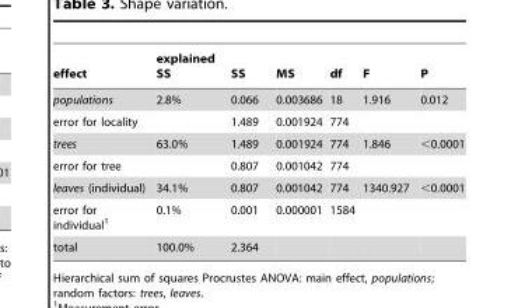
<table><thead><tr><td>effect</td><td>explained SS</td><td>SS</td><td>MS</td><td>df</td><td>F</td><td>P</td></tr></thead><tbody><tr><td>populations</td><td>2.8%</td><td>0.066</td><td>0.003686</td><td>18</td><td>1.916</td><td>0.012</td></tr><tr><td>error for locality</td><td></td><td>1.489</td><td>0.001924</td><td>774</td><td></td><td></td></tr><tr><td>trees</td><td>63.0%</td><td>1.489</td><td>0.001924</td><td>774</td><td>1.846</td><td>&lt;0.0001</td></tr><tr><td>error for tree</td><td></td><td>0.807</td><td>0.001042</td><td>774</td><td></td><td></td></tr><tr><td>leaves (individual)</td><td>34.1%</td><td>0.807</td><td>0.001042</td><td>774</td><td>1340.927</td><td>&lt;0.0001</td></tr><tr><td>error for individual<sup>1</sup></td><td>0.1%</td><td>0.001</td><td>0.000001</td><td>1584</td><td></td><td></td></tr><tr><td>total</td><td>100.0%</td><td>2.364</td><td></td><td></td><td></td><td></td></tr></tbody></table>